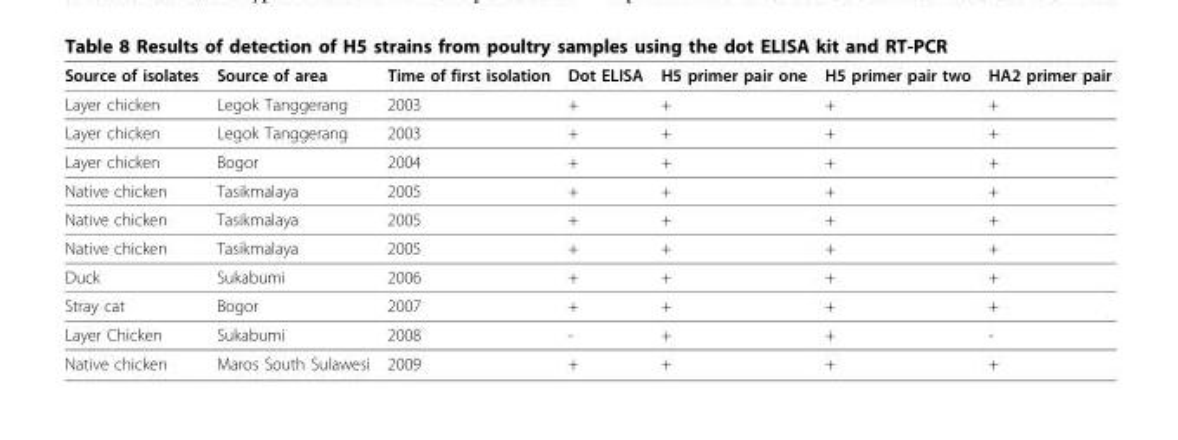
<table><thead><tr><td>Source of isolates</td><td>Source of area</td><td>Time of first isolation</td><td>Dot ELISA</td><td>H5 primer pair one</td><td>H5 primer pair two</td><td>HA2 primer pair</td></tr></thead><tbody><tr><td>Layer chicken</td><td>Legok Tanggerang</td><td>2003</td><td>+</td><td>+</td><td>+</td><td>+</td></tr><tr><td>Layer chicken</td><td>Legok Tanggerang</td><td>2003</td><td>+</td><td>+</td><td>+</td><td>+</td></tr><tr><td>Layer chicken</td><td>Bogor</td><td>2004</td><td>+</td><td>+</td><td>+</td><td>+</td></tr><tr><td>Native chicken</td><td>Tasikmalaya</td><td>2005</td><td>+</td><td>+</td><td>+</td><td>+</td></tr><tr><td>Native chicken</td><td>Tasikmalaya</td><td>2005</td><td>+</td><td>+</td><td>+</td><td>+</td></tr><tr><td>Native chicken</td><td>Tasikmalaya</td><td>2005</td><td>+</td><td>+</td><td>+</td><td>+</td></tr><tr><td>Duck</td><td>Sukabumi</td><td>2006</td><td>+</td><td>+</td><td>+</td><td>+</td></tr><tr><td>Stray cat</td><td>Bogor</td><td>2007</td><td>+</td><td>+</td><td>+</td><td>+</td></tr><tr><td>Layer Chicken</td><td>Sukabumi</td><td>2008</td><td>-</td><td>+</td><td>+</td><td>-</td></tr><tr><td>Native chicken</td><td>Maros South Sulawesi</td><td>2009</td><td>+</td><td>+</td><td>+</td><td>+</td></tr></tbody></table>